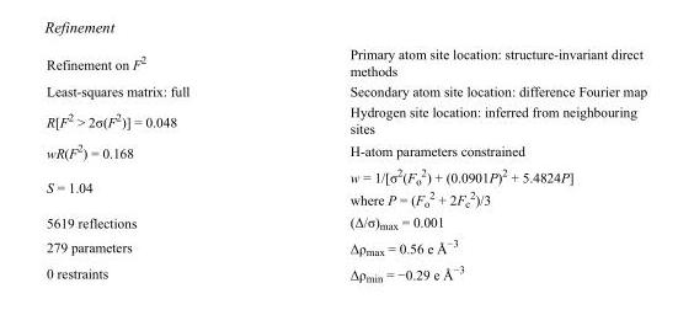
<table><tbody><tr><td>Refinement on F<sup>2</sup></td><td>Primary atom site location: structure-invariant direct methods</td></tr><tr><td>Least-squares matrix: full</td><td>Secondary atom site location: difference Fourier map</td></tr><tr><td>R[F<sup>2</sup> &gt; 2σ(F<sup>2</sup>)] = 0.048</td><td>Hydrogen site location: inferred from neighbouring sites</td></tr><tr><td>wR(F<sup>2</sup>) = 0.168</td><td>H-atom parameters constrained</td></tr><tr><td>S = 1.04</td><td>w = 1/[σ<sup>2</sup>(F<sub>o</sub> <sup>2</sup>) + (0.0901P)<sup>2</sup> + 5.4824P] where P = (F<sub>o</sub> <sup>2</sup> + 2F<sub>c</sub> <sup>2</sup>)/3</td></tr><tr><td>5619 reflections</td><td>(Δ/σ)<sub>max</sub> = 0.001</td></tr><tr><td>279 parameters</td><td>Δρ<sub>max</sub> = 0.56 e Å<sup>−3</sup></td></tr><tr><td>0 restraints</td><td>Δρ<sub>min</sub> = −0.29 e Å<sup>−3</sup></td></tr></tbody></table>